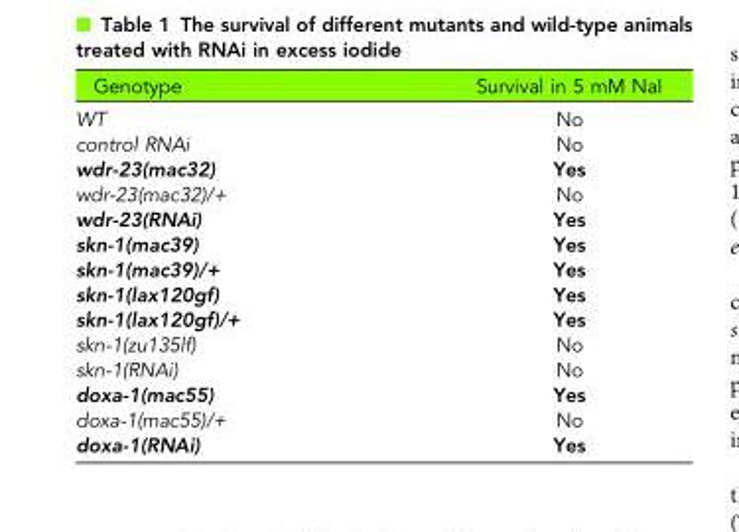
<table><thead><tr><td>Genotype</td><td>Survival in 5 mM NaI</td></tr></thead><tbody><tr><td>WT</td><td>No</td></tr><tr><td>control RNAi</td><td>No</td></tr><tr><td>wdr-23(mac32)</td><td>Yes</td></tr><tr><td>wdr-23(mac32)/+</td><td>No</td></tr><tr><td>wdr-23(RNAi)</td><td>Yes</td></tr><tr><td>skn-1(mac39)</td><td>Yes</td></tr><tr><td>skn-1(mac39)/+</td><td>Yes</td></tr><tr><td>skn-1(lax120gf)</td><td>Yes</td></tr><tr><td>skn-1(lax120gf)/+</td><td>Yes</td></tr><tr><td>skn-1(zu135lf)</td><td>No</td></tr><tr><td>skn-1(RNAi)</td><td>No</td></tr><tr><td>doxa-1(mac55)</td><td>Yes</td></tr><tr><td>doxa-1(mac55)/+</td><td>No</td></tr><tr><td>doxa-1(RNAi)</td><td>Yes</td></tr></tbody></table>